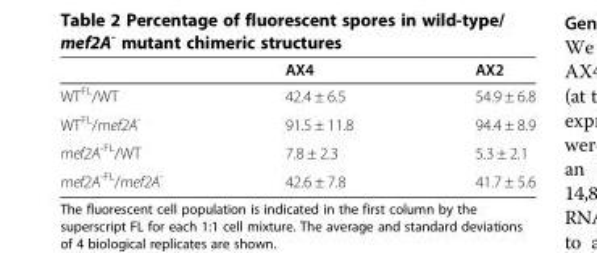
<table><thead><tr><td></td><td>AX4</td><td>AX2</td></tr></thead><tbody><tr><td>WT<sup>FL</sup>/WT</td><td>42.4 ± 6.5</td><td>54.9 ± 6.8</td></tr><tr><td>WT<sup>FL</sup>/mef2A<sup>-</sup></td><td>91.5 ± 11.8</td><td>94.4 ± 8.9</td></tr><tr><td>mef2A<sup>-FL</sup>/WT</td><td>7.8 ± 2.3</td><td>5.3 ± 2.1</td></tr><tr><td>mef2A<sup>-FL</sup>/mef2A<sup>-</sup></td><td>42.6 ± 7.8</td><td>41.7 ± 5.6</td></tr></tbody></table>